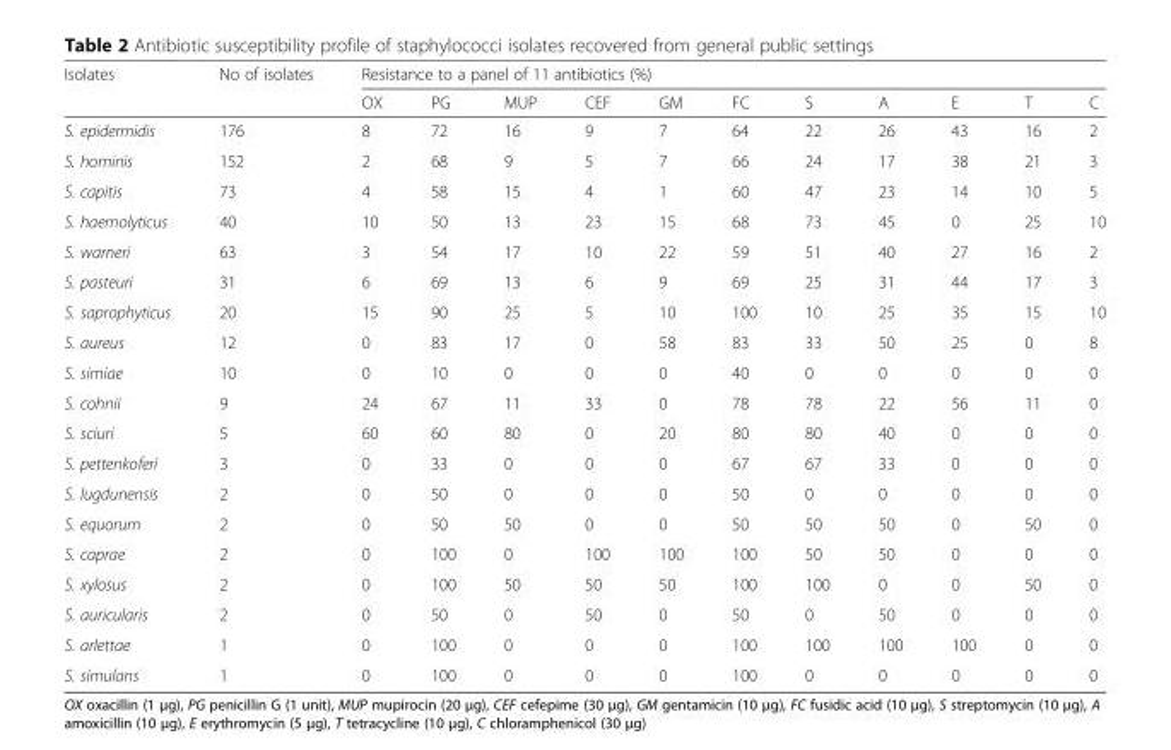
<table><thead><tr><td rowspan="2">Isolates</td><td rowspan="2">No of isolates</td><td colspan="11">Resistance to a panel of 11 antibiotics (%)</td></tr><tr><td>OX</td><td>PG</td><td>MUP</td><td>CEF</td><td>GM</td><td>FC</td><td>S</td><td>A</td><td>E</td><td>T</td><td>C</td></tr></thead><tbody><tr><td>S. epidermidis</td><td>176</td><td>8</td><td>72</td><td>16</td><td>9</td><td>7</td><td>64</td><td>22</td><td>26</td><td>43</td><td>16</td><td>2</td></tr><tr><td>S. hominis</td><td>152</td><td>2</td><td>68</td><td>9</td><td>5</td><td>7</td><td>66</td><td>24</td><td>17</td><td>38</td><td>21</td><td>3</td></tr><tr><td>S. capitis</td><td>73</td><td>4</td><td>58</td><td>15</td><td>4</td><td>1</td><td>60</td><td>47</td><td>23</td><td>14</td><td>10</td><td>5</td></tr><tr><td>S. haemolyticus</td><td>40</td><td>10</td><td>50</td><td>13</td><td>23</td><td>15</td><td>68</td><td>73</td><td>45</td><td>0</td><td>25</td><td>10</td></tr><tr><td>S. warneri</td><td>63</td><td>3</td><td>54</td><td>17</td><td>10</td><td>22</td><td>59</td><td>51</td><td>40</td><td>27</td><td>16</td><td>2</td></tr><tr><td>S. pasteuri</td><td>31</td><td>6</td><td>69</td><td>13</td><td>6</td><td>9</td><td>69</td><td>25</td><td>31</td><td>44</td><td>17</td><td>3</td></tr><tr><td>S. saprophyticus</td><td>20</td><td>15</td><td>90</td><td>25</td><td>5</td><td>10</td><td>100</td><td>10</td><td>25</td><td>35</td><td>15</td><td>10</td></tr><tr><td>S. aureus</td><td>12</td><td>0</td><td>83</td><td>17</td><td>0</td><td>58</td><td>83</td><td>33</td><td>50</td><td>25</td><td>0</td><td>8</td></tr><tr><td>S. simiae</td><td>10</td><td>0</td><td>10</td><td>0</td><td>0</td><td>0</td><td>40</td><td>0</td><td>0</td><td>0</td><td>0</td><td>0</td></tr><tr><td>S. cohnii</td><td>9</td><td>24</td><td>67</td><td>11</td><td>33</td><td>0</td><td>78</td><td>78</td><td>22</td><td>56</td><td>11</td><td>0</td></tr><tr><td>S. sciuri</td><td>5</td><td>60</td><td>60</td><td>80</td><td>0</td><td>20</td><td>80</td><td>80</td><td>40</td><td>0</td><td>0</td><td>0</td></tr><tr><td>S. pettenkoferi</td><td>3</td><td>0</td><td>33</td><td>0</td><td>0</td><td>0</td><td>67</td><td>67</td><td>33</td><td>0</td><td>0</td><td>0</td></tr><tr><td>S. lugdunensis</td><td>2</td><td>0</td><td>50</td><td>0</td><td>0</td><td>0</td><td>50</td><td>0</td><td>0</td><td>0</td><td>0</td><td>0</td></tr><tr><td>S. equorum</td><td>2</td><td>0</td><td>50</td><td>50</td><td>0</td><td>0</td><td>50</td><td>50</td><td>50</td><td>0</td><td>50</td><td>0</td></tr><tr><td>S. caprae</td><td>2</td><td>0</td><td>100</td><td>0</td><td>100</td><td>100</td><td>100</td><td>50</td><td>50</td><td>0</td><td>0</td><td>0</td></tr><tr><td>S. xylosus</td><td>2</td><td>0</td><td>100</td><td>50</td><td>50</td><td>50</td><td>100</td><td>100</td><td>0</td><td>0</td><td>50</td><td>0</td></tr><tr><td>S. auricularis</td><td>2</td><td>0</td><td>50</td><td>0</td><td>50</td><td>0</td><td>50</td><td>0</td><td>50</td><td>0</td><td>0</td><td>0</td></tr><tr><td>S. arlettae</td><td>1</td><td>0</td><td>100</td><td>0</td><td>0</td><td>0</td><td>100</td><td>100</td><td>100</td><td>100</td><td>0</td><td>0</td></tr><tr><td>S. simulans</td><td>1</td><td>0</td><td>100</td><td>0</td><td>0</td><td>0</td><td>100</td><td>0</td><td>0</td><td>0</td><td>0</td><td>0</td></tr></tbody></table>